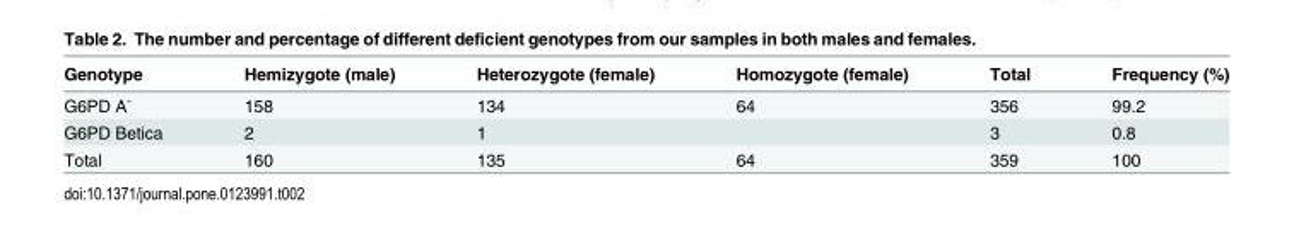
<table><thead><tr><td>Genotype</td><td>Hemizygote (male)</td><td>Heterozygote (female)</td><td>Homozygote (female)</td><td>Total</td><td>Frequency (%)</td></tr></thead><tbody><tr><td>G6PD A<sup>-</sup></td><td>158</td><td>134</td><td>64</td><td>356</td><td>99.2</td></tr><tr><td>G6PD Betica</td><td>2</td><td>1</td><td></td><td>3</td><td>0.8</td></tr><tr><td>Total</td><td>160</td><td>135</td><td>64</td><td>359</td><td>100</td></tr></tbody></table>